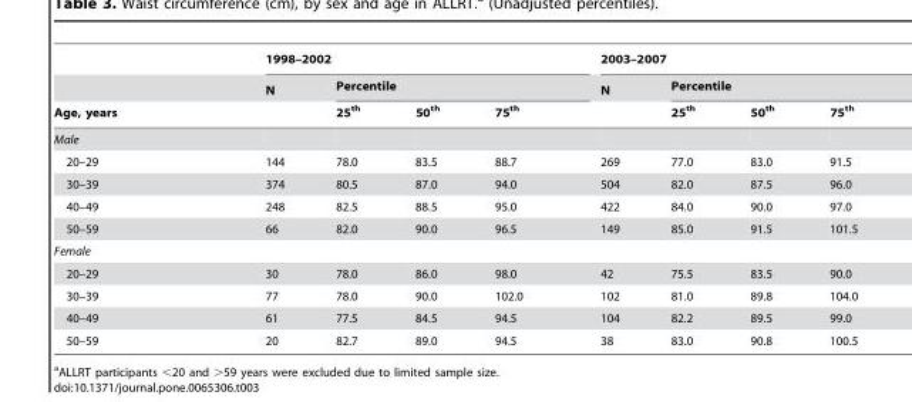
<table><thead><tr><td rowspan="3">Age, years</td><td colspan="4">1998–2002</td><td colspan="4">2003–2007</td></tr><tr><td rowspan="2">N</td><td colspan="3">Percentile</td><td rowspan="2">N</td><td colspan="3">Percentile</td></tr><tr><td>25<sup>th</sup></td><td>50<sup>th</sup></td><td>75<sup>th</sup></td><td>25<sup>th</sup></td><td>50<sup>th</sup></td><td>75<sup>th</sup></td></tr></thead><tbody><tr><td colspan="9">Male</td></tr><tr><td>20–29</td><td>144</td><td>78.0</td><td>83.5</td><td>88.7</td><td>269</td><td>77.0</td><td>83.0</td><td>91.5</td></tr><tr><td>30–39</td><td>374</td><td>80.5</td><td>87.0</td><td>94.0</td><td>504</td><td>82.0</td><td>87.5</td><td>96.0</td></tr><tr><td>40–49</td><td>248</td><td>82.5</td><td>88.5</td><td>95.0</td><td>422</td><td>84.0</td><td>90.0</td><td>97.0</td></tr><tr><td>50–59</td><td>66</td><td>82.0</td><td>90.0</td><td>96.5</td><td>149</td><td>85.0</td><td>91.5</td><td>101.5</td></tr><tr><td colspan="9">Female</td></tr><tr><td>20–29</td><td>30</td><td>78.0</td><td>86.0</td><td>98.0</td><td>42</td><td>75.5</td><td>83.5</td><td>90.0</td></tr><tr><td>30–39</td><td>77</td><td>78.0</td><td>90.0</td><td>102.0</td><td>102</td><td>81.0</td><td>89.8</td><td>104.0</td></tr><tr><td>40–49</td><td>61</td><td>77.5</td><td>84.5</td><td>94.5</td><td>104</td><td>82.2</td><td>89.5</td><td>99.0</td></tr><tr><td>50–59</td><td>20</td><td>82.7</td><td>89.0</td><td>94.5</td><td>38</td><td>83.0</td><td>90.8</td><td>100.5</td></tr></tbody></table>